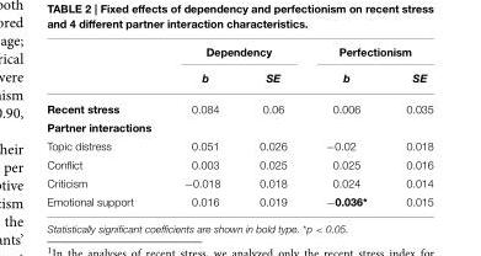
<table><thead><tr><td rowspan="2"></td><td colspan="2">Dependency</td><td colspan="2">Perfectionism</td></tr><tr><td>b</td><td>SE</td><td>b</td><td>SE</td></tr></thead><tbody><tr><td>Recent stress</td><td>0.084</td><td>0.06</td><td>0.006</td><td>0.035</td></tr><tr><td colspan="5">Partner interactions</td></tr><tr><td>Topic distress</td><td>0.051</td><td>0.026</td><td>−0.02</td><td>0.018</td></tr><tr><td>Conflict</td><td>0.003</td><td>0.025</td><td>0.025</td><td>0.016</td></tr><tr><td>Criticism</td><td>−0.018</td><td>0.018</td><td>0.024</td><td>0.014</td></tr><tr><td>Emotional support</td><td>0.016</td><td>0.019</td><td>−0.036*</td><td>0.015</td></tr></tbody></table>